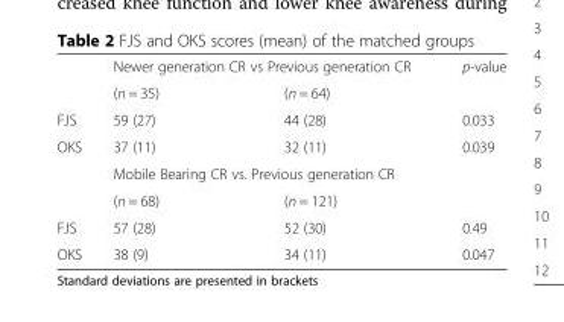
<table><thead><tr><td rowspan="2"></td><td colspan="2">Newer generation CR vs Previous generation CR</td><td rowspan="2">p-value</td></tr><tr><td>(n = 35)</td><td>(n = 64)</td></tr></thead><tbody><tr><td>FJS</td><td>59 (27)</td><td>44 (28)</td><td>0.033</td></tr><tr><td rowspan="3">OKS</td><td>37 (11)</td><td>32 (11)</td><td>0.039</td></tr><tr><td colspan="2">Mobile Bearing CR vs. Previous generation CR</td><td rowspan="2"></td></tr><tr><td>(n = 68)</td><td>(n = 121)</td></tr><tr><td>FJS</td><td>57 (28)</td><td>52 (30)</td><td>0.49</td></tr><tr><td>OKS</td><td>38 (9)</td><td>34 (11)</td><td>0.047</td></tr></tbody></table>